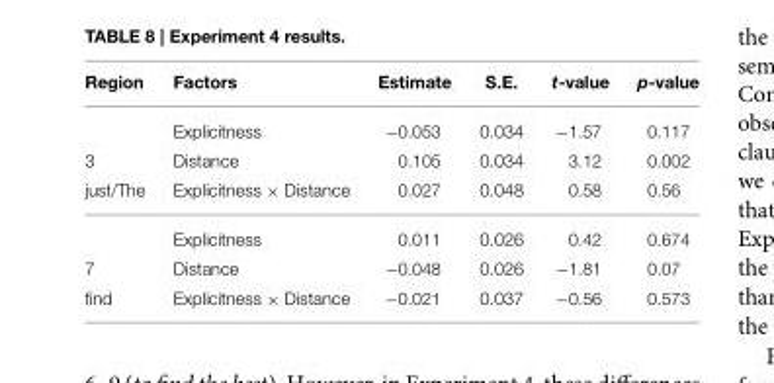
<table><thead><tr><td>Region</td><td>Factors</td><td>Estimate</td><td>S.E.</td><td>t-value</td><td>p-value</td></tr></thead><tbody><tr><td></td><td>Explicitness</td><td>−0.053</td><td>0.034</td><td>−1.57</td><td>0.117</td></tr><tr><td>3</td><td>Distance</td><td>0.105</td><td>0.034</td><td>3.12</td><td>0.002</td></tr><tr><td rowspan="2">just/The</td><td>Explicitness × Distance</td><td>0.027</td><td>0.048</td><td>0.58</td><td>0.56</td></tr><tr><td>Explicitness</td><td>0.011</td><td>0.026</td><td>0.42</td><td>0.674</td></tr><tr><td>7</td><td>Distance</td><td>−0.048</td><td>0.026</td><td>−1.81</td><td>0.07</td></tr><tr><td>find</td><td>Explicitness × Distance</td><td>−0.021</td><td>0.037</td><td>−0.56</td><td>0.573</td></tr></tbody></table>